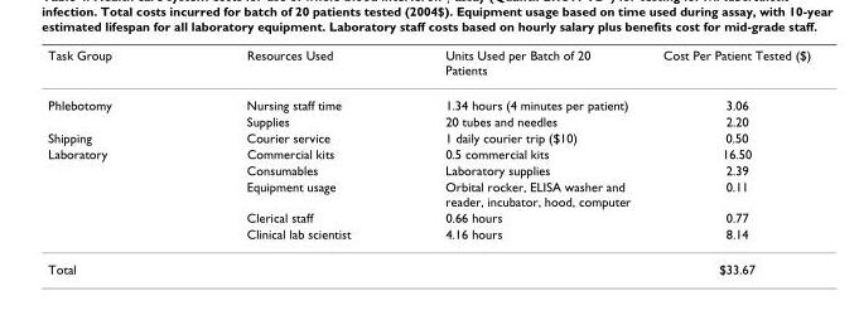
<table><thead><tr><td>Task Group</td><td>Resources Used</td><td>Units Used per Batch of 20 Patients</td><td>Cost Per Patient Tested ($)</td></tr></thead><tbody><tr><td rowspan="2">Phlebotomy</td><td>Nursing staff time</td><td>1.34 hours (4 minutes per patient)</td><td>3.06</td></tr><tr><td>Supplies</td><td>20 tubes and needles</td><td>2.20</td></tr><tr><td>Shipping</td><td>Courier service</td><td>1 daily courier trip ($10)</td><td>0.50</td></tr><tr><td rowspan="5">Laboratory</td><td>Commercial kits</td><td>0.5 commercial kits</td><td>16.50</td></tr><tr><td>Consumables</td><td>Laboratory supplies</td><td>2.39</td></tr><tr><td>Equipment usage</td><td>Orbital rocker, ELISA washer and reader, incubator, hood, computer</td><td>0.11</td></tr><tr><td>Clerical staff</td><td>0.66 hours</td><td>0.77</td></tr><tr><td>Clinical lab scientist</td><td>4.16 hours</td><td>8.14</td></tr><tr><td>Total</td><td></td><td></td><td>$33.67</td></tr></tbody></table>